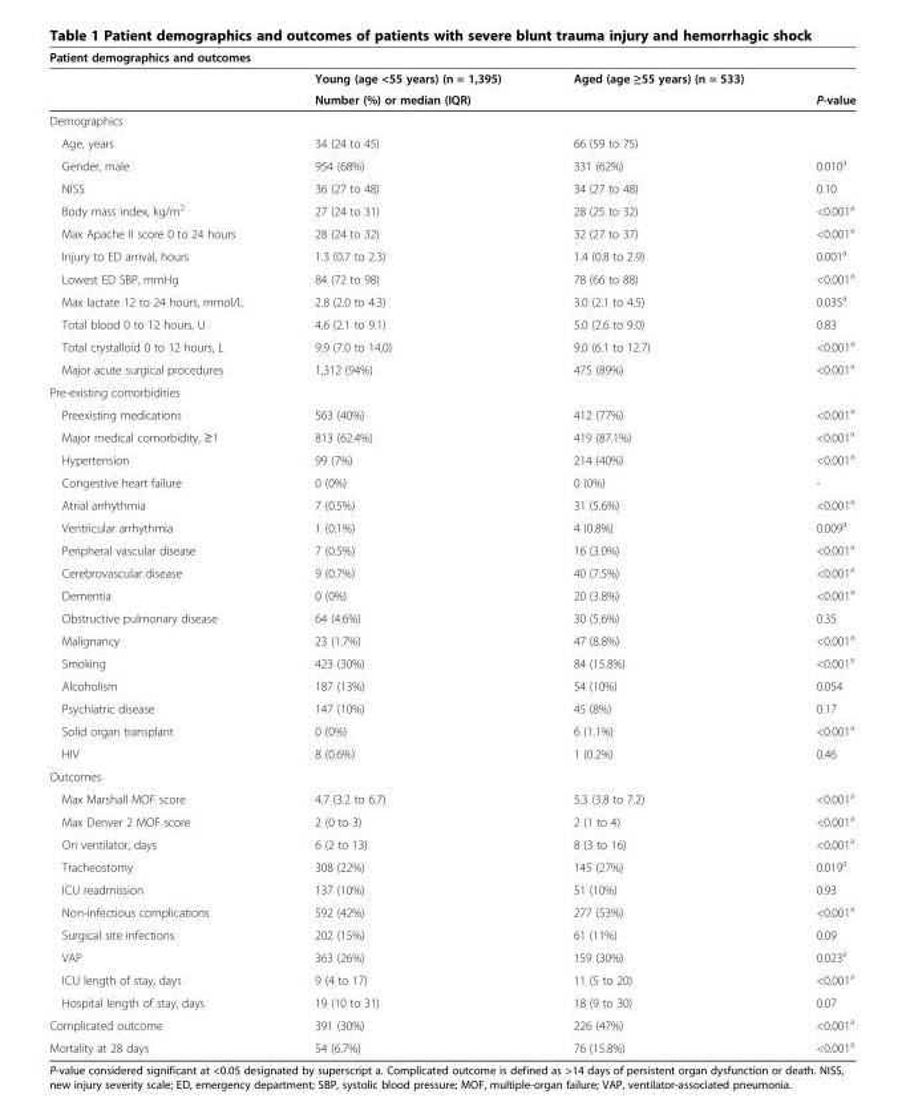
<table><thead><tr><td colspan="4">Patient demographics and outcomes</td></tr><tr><td rowspan="2"></td><td>Young (age &lt;55 years) (n = 1,395)</td><td>Aged (age ≥55 years) (n = 533)</td><td rowspan="2">P-value</td></tr><tr><td colspan="2">Number (%) or median (IQR)</td></tr></thead><tbody><tr><td colspan="4">Demographics</td></tr><tr><td>Age, years</td><td>34 (24 to 45)</td><td>66 (59 to 75)</td><td></td></tr><tr><td>Gender, male</td><td>954 (68%)</td><td>331 (62%)</td><td>0.010<sup>a</sup></td></tr><tr><td>NISS</td><td>36 (27 to 48)</td><td>34 (27 to 48)</td><td>0.10</td></tr><tr><td>Body mass index, kg/m<sup>2</sup></td><td>27 (24 to 31)</td><td>28 (25 to 32)</td><td>&lt;0.001<sup>a</sup></td></tr><tr><td>Max Apache II score 0 to 24 hours</td><td>28 (24 to 32)</td><td>32 (27 to 37)</td><td>&lt;0.001<sup>a</sup></td></tr><tr><td>Injury to ED arrival, hours</td><td>1.3 (0.7 to 2.3)</td><td>1.4 (0.8 to 2.9)</td><td>0.001<sup>a</sup></td></tr><tr><td>Lowest ED SBP, mmHg</td><td>84 (72 to 98)</td><td>78 (66 to 88)</td><td>&lt;0.001<sup>a</sup></td></tr><tr><td>Max lactate 12 to 24 hours, mmol/L</td><td>2.8 (2.0 to 4.3)</td><td>3.0 (2.1 to 4.5)</td><td>0.035<sup>a</sup></td></tr><tr><td>Total blood 0 to 12 hours, U</td><td>4.6 (2.1 to 9.1)</td><td>5.0 (2.6 to 9.0)</td><td>0.83</td></tr><tr><td>Total crystalloid 0 to 12 hours, L</td><td>9.9 (7.0 to 14.0)</td><td>9.0 (6.1 to 12.7)</td><td>&lt;0.001<sup>a</sup></td></tr><tr><td>Major acute surgical procedures</td><td>1,312 (94%)</td><td>475 (89%)</td><td>&lt;0.001<sup>a</sup></td></tr><tr><td colspan="4">Pre-existing comorbidities</td></tr><tr><td>Preexisting medications</td><td>563 (40%)</td><td>412 (77%)</td><td>&lt;0.001<sup>a</sup></td></tr><tr><td>Major medical comorbidity, ≥1</td><td>813 (62.4%)</td><td>419 (87.1%)</td><td>&lt;0.001<sup>a</sup></td></tr><tr><td>Hypertension</td><td>99 (7%)</td><td>214 (40%)</td><td>&lt;0.001<sup>a</sup></td></tr><tr><td>Congestive heart failure</td><td>0 (0%)</td><td>0 (0%)</td><td>-</td></tr><tr><td>Atrial arrhythmia</td><td>7 (0.5%)</td><td>31 (5.6%)</td><td>&lt;0.001<sup>a</sup></td></tr><tr><td>Ventricular arrhythmia</td><td>1 (0.1%)</td><td>4 (0.8%)</td><td>0.009<sup>a</sup></td></tr><tr><td>Peripheral vascular disease</td><td>7 (0.5%)</td><td>16 (3.0%)</td><td>&lt;0.001<sup>a</sup></td></tr><tr><td>Cerebrovascular disease</td><td>9 (0.7%)</td><td>40 (7.5%)</td><td>&lt;0.001<sup>a</sup></td></tr><tr><td>Dementia</td><td>0 (0%)</td><td>20 (3.8%)</td><td>&lt;0.001<sup>a</sup></td></tr><tr><td>Obstructive pulmonary disease</td><td>64 (4.6%)</td><td>30 (5.6%)</td><td>0.35</td></tr><tr><td>Malignancy</td><td>23 (1.7%)</td><td>47 (8.8%)</td><td>&lt;0.001<sup>a</sup></td></tr><tr><td>Smoking</td><td>423 (30%)</td><td>84 (15.8%)</td><td>&lt;0.001<sup>a</sup></td></tr><tr><td>Alcoholism</td><td>187 (13%)</td><td>54 (10%)</td><td>0.054</td></tr><tr><td>Psychiatric disease</td><td>147 (10%)</td><td>45 (8%)</td><td>0.17</td></tr><tr><td>Solid organ transplant</td><td>0 (0%)</td><td>6 (1.1%)</td><td>&lt;0.001<sup>a</sup></td></tr><tr><td>HIV</td><td>8 (0.6%)</td><td>1 (0.2%)</td><td>0.46</td></tr><tr><td colspan="4">Outcomes</td></tr><tr><td>Max Marshall MOF score</td><td>4.7 (3.2 to 6.7)</td><td>5.3 (3.8 to 7.2)</td><td>&lt;0.001<sup>a</sup></td></tr><tr><td>Max Denver 2 MOF score</td><td>2 (0 to 3)</td><td>2 (1 to 4)</td><td>&lt;0.001<sup>a</sup></td></tr><tr><td>On ventilator, days</td><td>6 (2 to 13)</td><td>8 (3 to 16)</td><td>&lt;0.001<sup>a</sup></td></tr><tr><td>Tracheostomy</td><td>308 (22%)</td><td>145 (27%)</td><td>0.019<sup>a</sup></td></tr><tr><td>ICU readmission</td><td>137 (10%)</td><td>51 (10%)</td><td>0.93</td></tr><tr><td>Non-infectious complications</td><td>592 (42%)</td><td>277 (53%)</td><td>&lt;0.001<sup>a</sup></td></tr><tr><td>Surgical site infections</td><td>202 (15%)</td><td>61 (11%)</td><td>0.09</td></tr><tr><td>VAP</td><td>363 (26%)</td><td>159 (30%)</td><td>0.023<sup>a</sup></td></tr><tr><td>ICU length of stay, days</td><td>9 (4 to 17)</td><td>11 (5 to 20)</td><td>&lt;0.001<sup>a</sup></td></tr><tr><td>Hospital length of stay, days</td><td>19 (10 to 31)</td><td>18 (9 to 30)</td><td>0.07</td></tr><tr><td>Complicated outcome</td><td>391 (30%)</td><td>226 (47%)</td><td>&lt;0.001<sup>a</sup></td></tr><tr><td>Mortality at 28 days</td><td>54 (6.7%)</td><td>76 (15.8%)</td><td>&lt;0.001<sup>a</sup></td></tr></tbody></table>